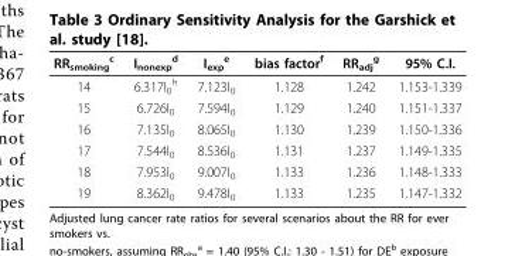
<table><thead><tr><td>RR<sub>smoking</sub> <sup>c</sup></td><td>I<sub>nonexp</sub> <sup>d</sup></td><td>I<sub>exp</sub> <sup>e</sup></td><td>bias factor<sup>f</sup></td><td>RR<sub>adj</sub> <sup>g</sup></td><td>95% C.I.</td></tr></thead><tbody><tr><td>14</td><td>6.317I<sub>0</sub> <sup>h</sup></td><td>7.123I<sub>0</sub></td><td>1.128</td><td>1.242</td><td>1.153-1.339</td></tr><tr><td>15</td><td>6.726I<sub>0</sub></td><td>7.594I<sub>0</sub></td><td>1.129</td><td>1.240</td><td>1.151-1.337</td></tr><tr><td>16</td><td>7.135I<sub>0</sub></td><td>8.065I<sub>0</sub></td><td>1.130</td><td>1.239</td><td>1.150-1.336</td></tr><tr><td>17</td><td>7.544I<sub>0</sub></td><td>8.536I<sub>0</sub></td><td>1.131</td><td>1.237</td><td>1.149-1.335</td></tr><tr><td>18</td><td>7.953I<sub>0</sub></td><td>9.007I<sub>0</sub></td><td>1.133</td><td>1.236</td><td>1.148-1.333</td></tr><tr><td>19</td><td>8.362I<sub>0</sub></td><td>9.478I<sub>0</sub></td><td>1.133</td><td>1.235</td><td>1.147-1.332</td></tr></tbody></table>